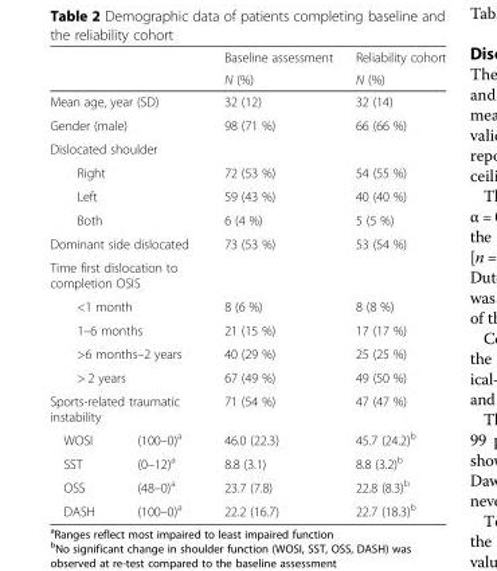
<table><thead><tr><td rowspan="2"></td><td rowspan="2"></td><td rowspan="2">Baseline assessment N (%)</td><td rowspan="2">Reliability cohort N (%)</td></tr><tr></tr></thead><tbody><tr><td colspan="2">Mean age, year (SD)</td><td>32 (12)</td><td>32 (14)</td></tr><tr><td colspan="2">Gender (male)</td><td>98 (71 %)</td><td>66 (66 %)</td></tr><tr><td colspan="4">Dislocated shoulder</td></tr><tr><td colspan="2">Right</td><td>72 (53 %)</td><td>54 (55 %)</td></tr><tr><td colspan="2">Left</td><td>59 (43 %)</td><td>40 (40 %)</td></tr><tr><td colspan="2">Both</td><td>6 (4 %)</td><td>5 (5 %)</td></tr><tr><td colspan="2">Dominant side dislocated</td><td>73 (53 %)</td><td>53 (54 %)</td></tr><tr><td colspan="4">Time first dislocation to completion OSIS</td></tr><tr><td colspan="2">&lt;1 month</td><td>8 (6 %)</td><td>8 (8 %)</td></tr><tr><td colspan="2">1–6 months</td><td>21 (15 %)</td><td>17 (17 %)</td></tr><tr><td colspan="2">&gt;6 months–2 years</td><td>40 (29 %)</td><td>25 (25 %)</td></tr><tr><td colspan="2">&gt; 2 years</td><td>67 (49 %)</td><td>49 (50 %)</td></tr><tr><td colspan="2">Sports-related traumatic instability</td><td>71 (54 %)</td><td>47 (47 %)</td></tr><tr><td>WOSI</td><td>(100–0)<sup>a</sup></td><td>46.0 (22.3)</td><td>45.7 (24.2)<sup>b</sup></td></tr><tr><td>SST</td><td>(0–12)<sup>a</sup></td><td>8.8 (3.1)</td><td>8.8 (3.2)<sup>b</sup></td></tr><tr><td>OSS</td><td>(48–0)<sup>a</sup></td><td>23.7 (7.8)</td><td>22.8 (8.3)<sup>b</sup></td></tr><tr><td>DASH</td><td>(100–0)<sup>a</sup></td><td>22.2 (16.7)</td><td>22.7 (18.3)<sup>b</sup></td></tr></tbody></table>